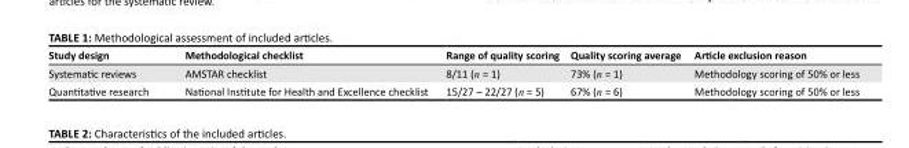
<table><thead><tr><td>Study design</td><td>Methodological checklist</td><td>Range of quality scoring</td><td>Quality scoring average</td><td>Article exclusion reason</td></tr></thead><tbody><tr><td>Systematic reviews</td><td>AMSTAR checklist</td><td>8/11 (n = 1)</td><td>73% (n = 1)</td><td>Methodology scoring of 50% or less</td></tr><tr><td>Quantitative research</td><td>National Institute for Health and Excellence checklist</td><td>15/27 – 22/27 (n = 5)</td><td>67% (n = 6)</td><td>Methodology scoring of 50% or less</td></tr></tbody></table>